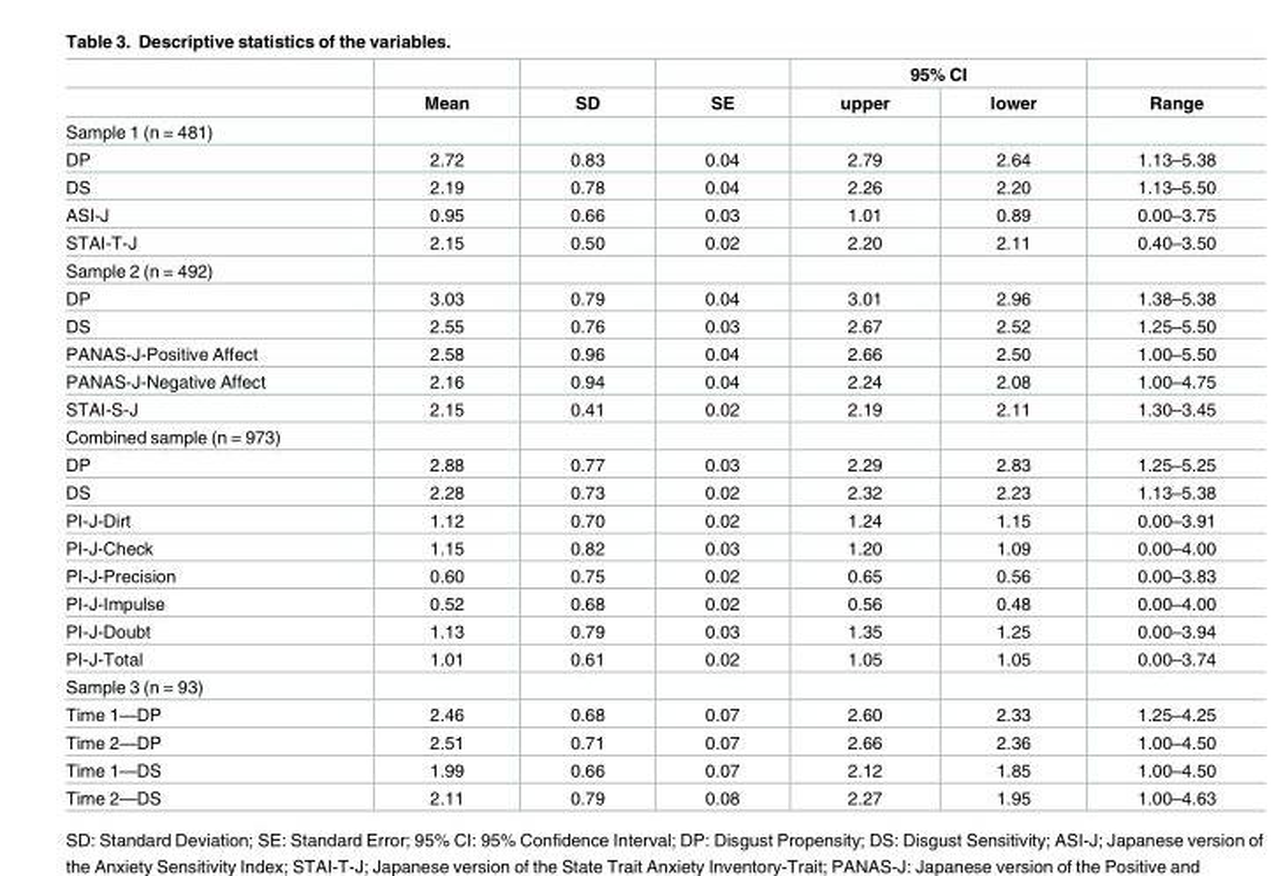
<table><thead><tr><td rowspan="2"></td><td rowspan="2">Mean</td><td rowspan="2">SD</td><td rowspan="2">SE</td><td colspan="2">95% CI</td><td rowspan="2">Range</td></tr><tr><td>upper</td><td>lower</td></tr></thead><tbody><tr><td colspan="7">Sample 1 (n = 481)</td></tr><tr><td>DP</td><td>2.72</td><td>0.83</td><td>0.04</td><td>2.79</td><td>2.64</td><td>1.13–5.38</td></tr><tr><td>DS</td><td>2.19</td><td>0.78</td><td>0.04</td><td>2.26</td><td>2.20</td><td>1.13–5.50</td></tr><tr><td>ASI-J</td><td>0.95</td><td>0.66</td><td>0.03</td><td>1.01</td><td>0.89</td><td>0.00–3.75</td></tr><tr><td>STAI-T-J</td><td>2.15</td><td>0.50</td><td>0.02</td><td>2.20</td><td>2.11</td><td>0.40–3.50</td></tr><tr><td colspan="7">Sample 2 (n = 492)</td></tr><tr><td>DP</td><td>3.03</td><td>0.79</td><td>0.04</td><td>3.01</td><td>2.96</td><td>1.38–5.38</td></tr><tr><td>DS</td><td>2.55</td><td>0.76</td><td>0.03</td><td>2.67</td><td>2.52</td><td>1.25–5.50</td></tr><tr><td>PANAS-J-Positive Affect</td><td>2.58</td><td>0.96</td><td>0.04</td><td>2.66</td><td>2.50</td><td>1.00–5.50</td></tr><tr><td>PANAS-J-Negative Affect</td><td>2.16</td><td>0.94</td><td>0.04</td><td>2.24</td><td>2.08</td><td>1.00–4.75</td></tr><tr><td>STAI-S-J</td><td>2.15</td><td>0.41</td><td>0.02</td><td>2.19</td><td>2.11</td><td>1.30–3.45</td></tr><tr><td colspan="7">Combined sample (n = 973)</td></tr><tr><td>DP</td><td>2.88</td><td>0.77</td><td>0.03</td><td>2.29</td><td>2.83</td><td>1.25–5.25</td></tr><tr><td>DS</td><td>2.28</td><td>0.73</td><td>0.02</td><td>2.32</td><td>2.23</td><td>1.13–5.38</td></tr><tr><td>PI-J-Dirt</td><td>1.12</td><td>0.70</td><td>0.02</td><td>1.24</td><td>1.15</td><td>0.00–3.91</td></tr><tr><td>PI-J-Check</td><td>1.15</td><td>0.82</td><td>0.03</td><td>1.20</td><td>1.09</td><td>0.00–4.00</td></tr><tr><td>PI-J-Precision</td><td>0.60</td><td>0.75</td><td>0.02</td><td>0.65</td><td>0.56</td><td>0.00–3.83</td></tr><tr><td>PI-J-Impulse</td><td>0.52</td><td>0.68</td><td>0.02</td><td>0.56</td><td>0.48</td><td>0.00–4.00</td></tr><tr><td>PI-J-Doubt</td><td>1.13</td><td>0.79</td><td>0.03</td><td>1.35</td><td>1.25</td><td>0.00–3.94</td></tr><tr><td>PI-J-Total</td><td>1.01</td><td>0.61</td><td>0.02</td><td>1.05</td><td>1.05</td><td>0.00–3.74</td></tr><tr><td colspan="7">Sample 3 (n = 93)</td></tr><tr><td>Time 1—DP</td><td>2.46</td><td>0.68</td><td>0.07</td><td>2.60</td><td>2.33</td><td>1.25–4.25</td></tr><tr><td>Time 2—DP</td><td>2.51</td><td>0.71</td><td>0.07</td><td>2.66</td><td>2.36</td><td>1.00–4.50</td></tr><tr><td>Time 1—DS</td><td>1.99</td><td>0.66</td><td>0.07</td><td>2.12</td><td>1.85</td><td>1.00–4.50</td></tr><tr><td>Time 2—DS</td><td>2.11</td><td>0.79</td><td>0.08</td><td>2.27</td><td>1.95</td><td>1.00–4.63</td></tr></tbody></table>